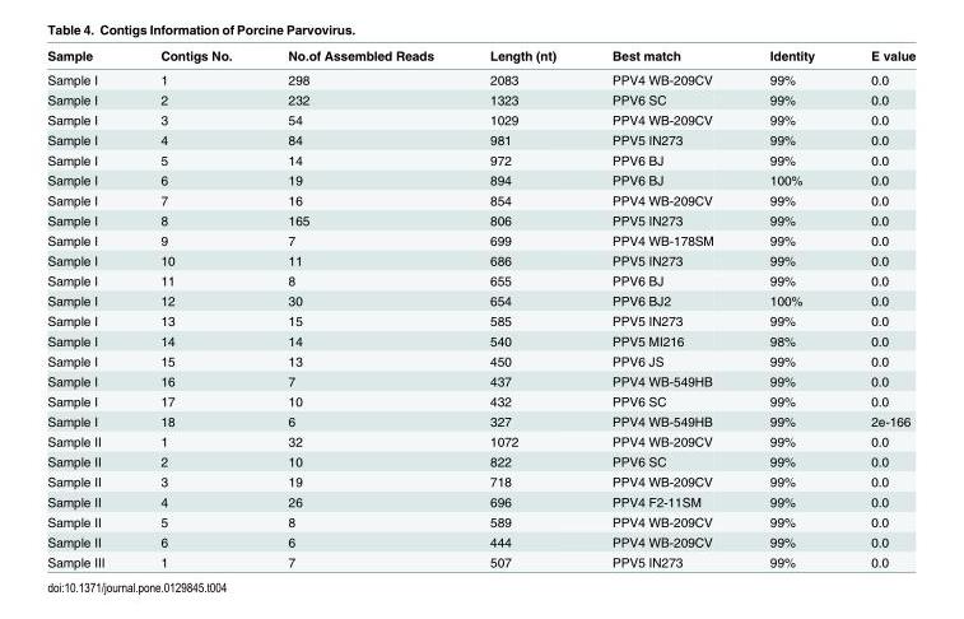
<table><thead><tr><td>Sample</td><td>Contigs No.</td><td>No.of Assembled Reads</td><td>Length (nt)</td><td>Best match</td><td>Identity</td><td>E value</td></tr></thead><tbody><tr><td>Sample I</td><td>1</td><td>298</td><td>2083</td><td>PPV4 WB-209CV</td><td>99%</td><td>0.0</td></tr><tr><td>Sample I</td><td>2</td><td>232</td><td>1323</td><td>PPV6 SC</td><td>99%</td><td>0.0</td></tr><tr><td>Sample I</td><td>3</td><td>54</td><td>1029</td><td>PPV4 WB-209CV</td><td>99%</td><td>0.0</td></tr><tr><td>Sample I</td><td>4</td><td>84</td><td>981</td><td>PPV5 IN273</td><td>99%</td><td>0.0</td></tr><tr><td>Sample I</td><td>5</td><td>14</td><td>972</td><td>PPV6 BJ</td><td>99%</td><td>0.0</td></tr><tr><td>Sample I</td><td>6</td><td>19</td><td>894</td><td>PPV6 BJ</td><td>100%</td><td>0.0</td></tr><tr><td>Sample I</td><td>7</td><td>16</td><td>854</td><td>PPV4 WB-209CV</td><td>99%</td><td>0.0</td></tr><tr><td>Sample I</td><td>8</td><td>165</td><td>806</td><td>PPV5 IN273</td><td>99%</td><td>0.0</td></tr><tr><td>Sample I</td><td>9</td><td>7</td><td>699</td><td>PPV4 WB-178SM</td><td>99%</td><td>0.0</td></tr><tr><td>Sample I</td><td>10</td><td>11</td><td>686</td><td>PPV5 IN273</td><td>99%</td><td>0.0</td></tr><tr><td>Sample I</td><td>11</td><td>8</td><td>655</td><td>PPV6 BJ</td><td>99%</td><td>0.0</td></tr><tr><td>Sample I</td><td>12</td><td>30</td><td>654</td><td>PPV6 BJ2</td><td>100%</td><td>0.0</td></tr><tr><td>Sample I</td><td>13</td><td>15</td><td>585</td><td>PPV5 IN273</td><td>99%</td><td>0.0</td></tr><tr><td>Sample I</td><td>14</td><td>14</td><td>540</td><td>PPV5 MI216</td><td>98%</td><td>0.0</td></tr><tr><td>Sample I</td><td>15</td><td>13</td><td>450</td><td>PPV6 JS</td><td>99%</td><td>0.0</td></tr><tr><td>Sample I</td><td>16</td><td>7</td><td>437</td><td>PPV4 WB-549HB</td><td>99%</td><td>0.0</td></tr><tr><td>Sample I</td><td>17</td><td>10</td><td>432</td><td>PPV6 SC</td><td>99%</td><td>0.0</td></tr><tr><td>Sample I</td><td>18</td><td>6</td><td>327</td><td>PPV4 WB-549HB</td><td>99%</td><td>2e-166</td></tr><tr><td>Sample II</td><td>1</td><td>32</td><td>1072</td><td>PPV4 WB-209CV</td><td>99%</td><td>0.0</td></tr><tr><td>Sample II</td><td>2</td><td>10</td><td>822</td><td>PPV6 SC</td><td>99%</td><td>0.0</td></tr><tr><td>Sample II</td><td>3</td><td>19</td><td>718</td><td>PPV4 WB-209CV</td><td>99%</td><td>0.0</td></tr><tr><td>Sample II</td><td>4</td><td>26</td><td>696</td><td>PPV4 F2-11SM</td><td>99%</td><td>0.0</td></tr><tr><td>Sample II</td><td>5</td><td>8</td><td>589</td><td>PPV4 WB-209CV</td><td>99%</td><td>0.0</td></tr><tr><td>Sample II</td><td>6</td><td>6</td><td>444</td><td>PPV4 WB-209CV</td><td>99%</td><td>0.0</td></tr><tr><td>Sample III</td><td>1</td><td>7</td><td>507</td><td>PPV5 IN273</td><td>99%</td><td>0.0</td></tr></tbody></table>